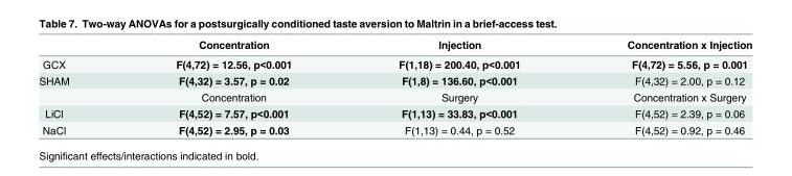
<table><thead><tr><td></td><td>Concentration</td><td>Injection</td><td>Concentration x Injection</td></tr></thead><tbody><tr><td>GCX</td><td>F(4,72) = 12.56, p&lt;0.001</td><td>F(1,18) = 200.40, p&lt;0.001</td><td>F(4,72) = 5.56, p = 0.001</td></tr><tr><td rowspan="2">SHAM</td><td>F(4,32) = 3.57, p = 0.02</td><td>F(1,8) = 136.60, p&lt;0.001</td><td>F(4,32) = 2.00, p = 0.12</td></tr><tr><td>Concentration</td><td>Surgery</td><td>Concentration x Surgery</td></tr><tr><td>LiCl</td><td>F(4,52) = 7.57, p&lt;0.001</td><td>F(1,13) = 33.83, p&lt;0.001</td><td>F(4,52) = 2.39, p = 0.06</td></tr><tr><td>NaCl</td><td>F(4,52) = 2.95, p = 0.03</td><td>F(1,13) = 0.44, p = 0.52</td><td>F(4,52) = 0.92, p = 0.46</td></tr></tbody></table>